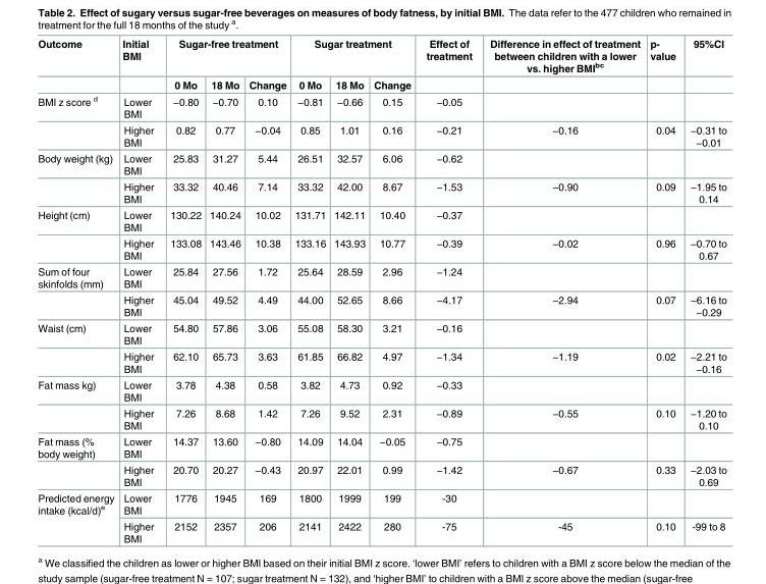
<table><thead><tr><td rowspan="2">Outcome</td><td rowspan="2">Initial BMI</td><td colspan="3">Sugar-free treatment</td><td colspan="3">Sugar treatment</td><td rowspan="2">Effect of treatment</td><td rowspan="2">Difference in effect of treatment between children with a lower vs. higher BMI<sup>bc</sup></td><td rowspan="2">p- value</td><td rowspan="2">95%CI</td></tr><tr><td>0 Mo</td><td>18 Mo</td><td>Change</td><td>0 Mo</td><td>18 Mo</td><td>Change</td></tr></thead><tbody><tr><td rowspan="2">BMI z score <sup>d</sup></td><td>Lower BMI</td><td>−0.80</td><td>−0.70</td><td>0.10</td><td>−0.81</td><td>−0.66</td><td>0.15</td><td>−0.05</td><td></td><td></td><td></td></tr><tr><td>Higher BMI</td><td>0.82</td><td>0.77</td><td>−0.04</td><td>0.85</td><td>1.01</td><td>0.16</td><td>−0.21</td><td>−0.16</td><td>0.04</td><td>−0.31 to −0.01</td></tr><tr><td rowspan="2">Body weight (kg)</td><td>Lower BMI</td><td>25.83</td><td>31.27</td><td>5.44</td><td>26.51</td><td>32.57</td><td>6.06</td><td>−0.62</td><td></td><td></td><td></td></tr><tr><td>Higher BMI</td><td>33.32</td><td>40.46</td><td>7.14</td><td>33.32</td><td>42.00</td><td>8.67</td><td>−1.53</td><td>−0.90</td><td>0.09</td><td>−1.95 to 0.14</td></tr><tr><td rowspan="2">Height (cm)</td><td>Lower BMI</td><td>130.22</td><td>140.24</td><td>10.02</td><td>131.71</td><td>142.11</td><td>10.40</td><td>−0.37</td><td></td><td></td><td></td></tr><tr><td>Higher BMI</td><td>133.08</td><td>143.46</td><td>10.38</td><td>133.16</td><td>143.93</td><td>10.77</td><td>−0.39</td><td>−0.02</td><td>0.96</td><td>−0.70 to 0.67</td></tr><tr><td rowspan="2">Sum of four skinfolds (mm)</td><td>Lower BMI</td><td>25.84</td><td>27.56</td><td>1.72</td><td>25.64</td><td>28.59</td><td>2.96</td><td>−1.24</td><td></td><td></td><td></td></tr><tr><td>Higher BMI</td><td>45.04</td><td>49.52</td><td>4.49</td><td>44.00</td><td>52.65</td><td>8.66</td><td>−4.17</td><td>−2.94</td><td>0.07</td><td>−6.16 to −0.29</td></tr><tr><td rowspan="2">Waist (cm)</td><td>Lower BMI</td><td>54.80</td><td>57.86</td><td>3.06</td><td>55.08</td><td>58.30</td><td>3.21</td><td>−0.16</td><td></td><td></td><td></td></tr><tr><td>Higher BMI</td><td>62.10</td><td>65.73</td><td>3.63</td><td>61.85</td><td>66.82</td><td>4.97</td><td>−1.34</td><td>−1.19</td><td>0.02</td><td>−2.21 to −0.16</td></tr><tr><td rowspan="2">Fat mass kg)</td><td>Lower BMI</td><td>3.78</td><td>4.38</td><td>0.58</td><td>3.82</td><td>4.73</td><td>0.92</td><td>−0.33</td><td></td><td></td><td></td></tr><tr><td>Higher BMI</td><td>7.26</td><td>8.68</td><td>1.42</td><td>7.26</td><td>9.52</td><td>2.31</td><td>−0.89</td><td>−0.55</td><td>0.10</td><td>−1.20 to 0.10</td></tr><tr><td rowspan="2">Fat mass (% body weight)</td><td>Lower BMI</td><td>14.37</td><td>13.60</td><td>−0.80</td><td>14.09</td><td>14.04</td><td>−0.05</td><td>−0.75</td><td></td><td></td><td></td></tr><tr><td>Higher BMI</td><td>20.70</td><td>20.27</td><td>−0.43</td><td>20.97</td><td>22.01</td><td>0.99</td><td>−1.42</td><td>−0.67</td><td>0.33</td><td>−2.03 to 0.69</td></tr><tr><td rowspan="2">Predicted energy intake (kcal/d)<sup>e</sup></td><td>Lower BMI</td><td>1776</td><td>1945</td><td>169</td><td>1800</td><td>1999</td><td>199</td><td>-30</td><td></td><td></td><td></td></tr><tr><td>Higher BMI</td><td>2152</td><td>2357</td><td>206</td><td>2141</td><td>2422</td><td>280</td><td>-75</td><td>-45</td><td>0.10</td><td>-99 to 8</td></tr></tbody></table>